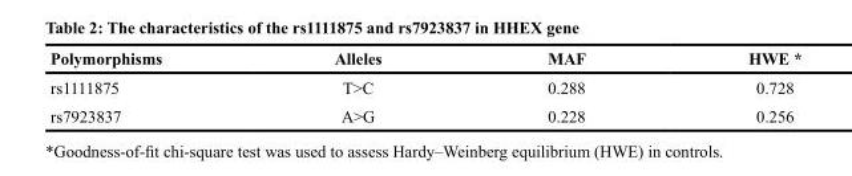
<table><thead><tr><td>Polymorphisms</td><td>Alleles</td><td>MAF</td><td>HWE *</td></tr></thead><tbody><tr><td>rs1111875</td><td>T&gt;C</td><td>0.288</td><td>0.728</td></tr><tr><td>rs7923837</td><td>A&gt;G</td><td>0.228</td><td>0.256</td></tr></tbody></table>